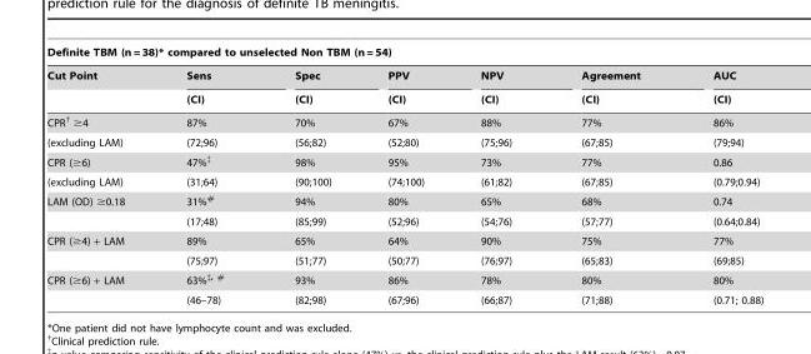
<table><thead><tr><td colspan="7">Definite TBM (n = 38)* compared to unselected Non TBM (n = 54)</td></tr><tr><td rowspan="2">Cut Point</td><td rowspan="2">Sens (CI)</td><td rowspan="2">Spec (CI)</td><td rowspan="2">PPV (CI)</td><td rowspan="2">NPV (CI)</td><td rowspan="2">Agreement (CI)</td><td rowspan="2">AUC (CI)</td></tr><tr></tr></thead><tbody><tr><td>CPR† ≥4</td><td>87%</td><td>70%</td><td>67%</td><td>88%</td><td>77%</td><td>86%</td></tr><tr><td>(excluding LAM)</td><td>(72;96)</td><td>(56;82)</td><td>(52;80)</td><td>(75;96)</td><td>(67;85)</td><td>(79;94)</td></tr><tr><td>CPR (≥6)</td><td>47%‡</td><td>98%</td><td>95%</td><td>73%</td><td>77%</td><td>0.86</td></tr><tr><td>(excluding LAM)</td><td>(31;64)</td><td>(90;100)</td><td>(74;100)</td><td>(61;82)</td><td>(67;85)</td><td>(0.79;0.94)</td></tr><tr><td rowspan="2">LAM (OD) ≥0.18</td><td>31%#</td><td>94%</td><td>80%</td><td>65%</td><td>68%</td><td>0.74</td></tr><tr><td>(17;48)</td><td>(85;99)</td><td>(52;96)</td><td>(54;76)</td><td>(57;77)</td><td>(0.64;0.84)</td></tr><tr><td rowspan="2">CPR (≥4) + LAM</td><td>89%</td><td>65%</td><td>64%</td><td>90%</td><td>75%</td><td>77%</td></tr><tr><td>(75;97)</td><td>(51;77)</td><td>(50;77)</td><td>(76;97)</td><td>(65;83)</td><td>(69;85)</td></tr><tr><td rowspan="2">CPR (≥6) + LAM</td><td>63%‡, #</td><td>93%</td><td>86%</td><td>78%</td><td>80%</td><td>80%</td></tr><tr><td>(46–78)</td><td>(82;98)</td><td>(67;96)</td><td>(66;87)</td><td>(71;88)</td><td>(0.71; 0.88)</td></tr></tbody></table>